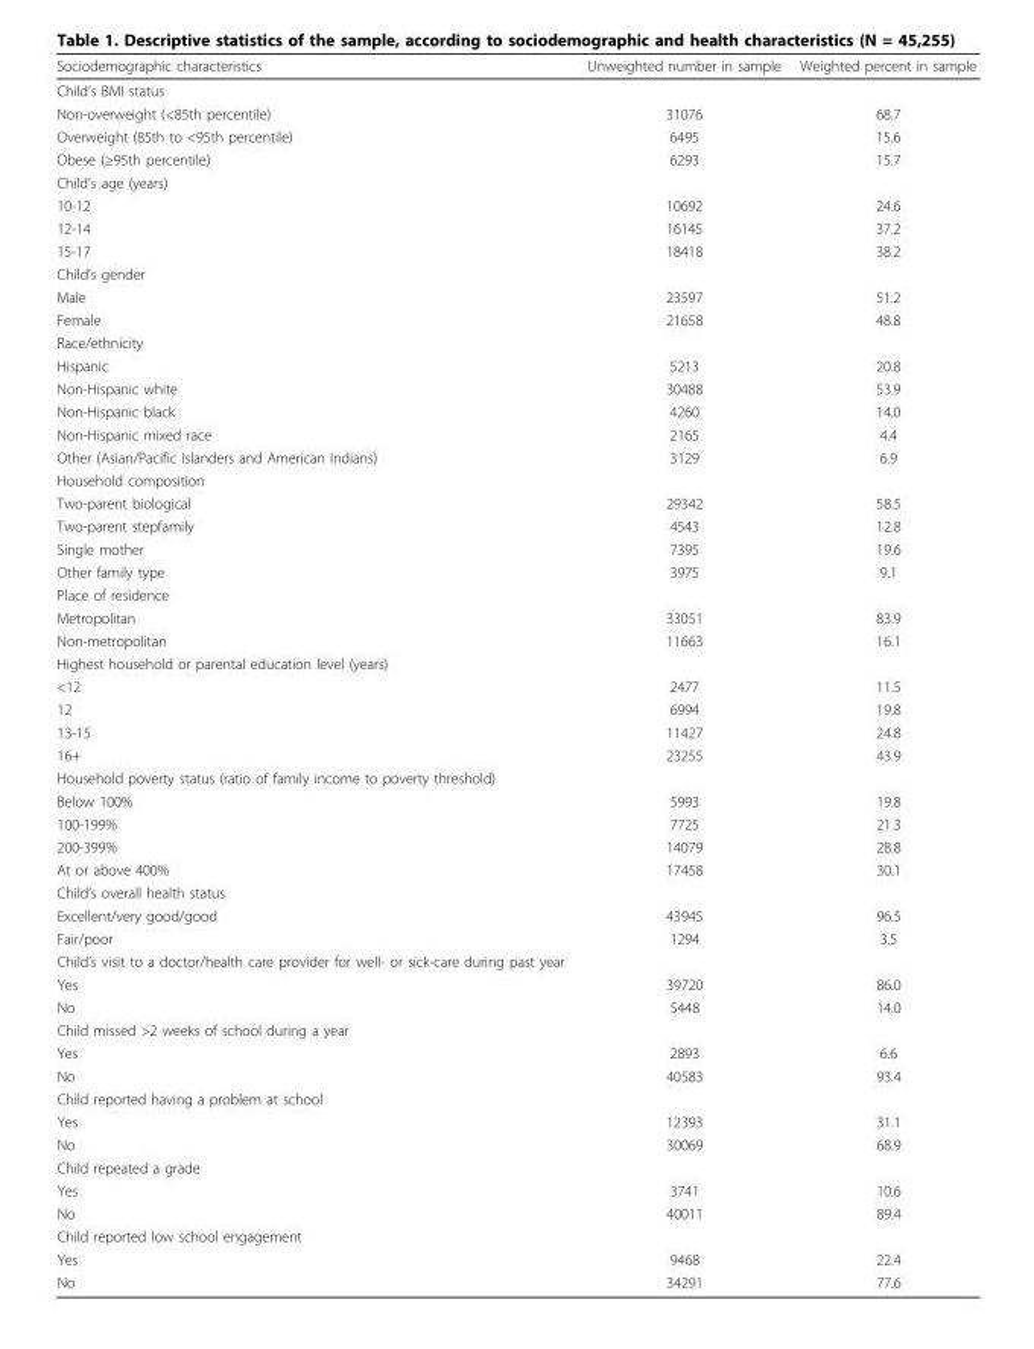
<table><thead><tr><td>Sociodemographic characteristics</td><td>Unweighted number in sample</td><td>Weighted percent in sample</td></tr></thead><tbody><tr><td colspan="3">Child’s BMI status</td></tr><tr><td>Non-overweight (&lt;85th percentile)</td><td>31076</td><td>68.7</td></tr><tr><td>Overweight (85th to &lt;95th percentile)</td><td>6495</td><td>15.6</td></tr><tr><td>Obese (≥95th percentile)</td><td>6293</td><td>15.7</td></tr><tr><td colspan="3">Child’s age (years)</td></tr><tr><td>10-12</td><td>10692</td><td>24.6</td></tr><tr><td>12-14</td><td>16145</td><td>37.2</td></tr><tr><td>15-17</td><td>18418</td><td>38.2</td></tr><tr><td colspan="3">Child’s gender</td></tr><tr><td>Male</td><td>23597</td><td>51.2</td></tr><tr><td>Female</td><td>21658</td><td>48.8</td></tr><tr><td colspan="3">Race/ethnicity</td></tr><tr><td>Hispanic</td><td>5213</td><td>20.8</td></tr><tr><td>Non-Hispanic white</td><td>30488</td><td>53.9</td></tr><tr><td>Non-Hispanic black</td><td>4260</td><td>14.0</td></tr><tr><td>Non-Hispanic mixed race</td><td>2165</td><td>4.4</td></tr><tr><td>Other (Asian/Pacific Islanders and American Indians)</td><td>3129</td><td>6.9</td></tr><tr><td colspan="3">Household composition</td></tr><tr><td>Two-parent biological</td><td>29342</td><td>58.5</td></tr><tr><td>Two-parent stepfamily</td><td>4543</td><td>12.8</td></tr><tr><td>Single mother</td><td>7395</td><td>19.6</td></tr><tr><td>Other family type</td><td>3975</td><td>9.1</td></tr><tr><td colspan="3">Place of residence</td></tr><tr><td>Metropolitan</td><td>33051</td><td>83.9</td></tr><tr><td>Non-metropolitan</td><td>11663</td><td>16.1</td></tr><tr><td colspan="3">Highest household or parental education level (years)</td></tr><tr><td>&lt;12</td><td>2477</td><td>11.5</td></tr><tr><td>12</td><td>6994</td><td>19.8</td></tr><tr><td>13-15</td><td>11427</td><td>24.8</td></tr><tr><td>16+</td><td>23255</td><td>43.9</td></tr><tr><td colspan="3">Household poverty status (ratio of family income to poverty threshold)</td></tr><tr><td>Below 100%</td><td>5993</td><td>19.8</td></tr><tr><td>100-199%</td><td>7725</td><td>21.3</td></tr><tr><td>200-399%</td><td>14079</td><td>28.8</td></tr><tr><td>At or above 400%</td><td>17458</td><td>30.1</td></tr><tr><td colspan="3">Child’s overall health status</td></tr><tr><td>Excellent/very good/good</td><td>43945</td><td>96.5</td></tr><tr><td>Fair/poor</td><td>1294</td><td>3.5</td></tr><tr><td colspan="3">Child’s visit to a doctor/health care provider for well- or sick-care during past year</td></tr><tr><td>Yes</td><td>39720</td><td>86.0</td></tr><tr><td>No</td><td>5448</td><td>14.0</td></tr><tr><td colspan="3">Child missed &gt;2 weeks of school during a year</td></tr><tr><td>Yes</td><td>2893</td><td>6.6</td></tr><tr><td>No</td><td>40583</td><td>93.4</td></tr><tr><td colspan="3">Child reported having a problem at school</td></tr><tr><td>Yes</td><td>12393</td><td>31.1</td></tr><tr><td>No</td><td>30069</td><td>68.9</td></tr><tr><td colspan="3">Child repeated a grade</td></tr><tr><td>Yes</td><td>3741</td><td>10.6</td></tr><tr><td>No</td><td>40011</td><td>89.4</td></tr><tr><td colspan="3">Child reported low school engagement</td></tr><tr><td>Yes</td><td>9468</td><td>22.4</td></tr><tr><td>No</td><td>34291</td><td>77.6</td></tr></tbody></table>